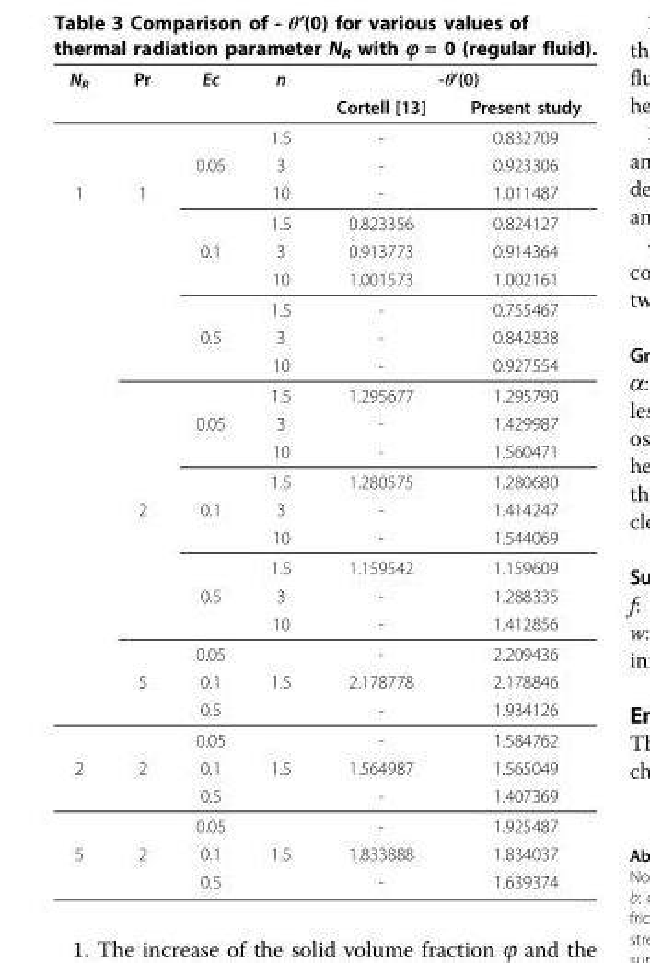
<table><thead><tr><td rowspan="2">N<sub>R</sub></td><td rowspan="2">Pr</td><td rowspan="2">Ec</td><td rowspan="2">n</td><td colspan="2">-θ’(0)</td></tr><tr><td>Cortell [13]</td><td>Present study</td></tr></thead><tbody><tr><td></td><td></td><td></td><td>1.5</td><td>-</td><td>0.832709</td></tr><tr><td></td><td></td><td>0.05</td><td>3</td><td>-</td><td>0.923306</td></tr><tr><td rowspan="20">1</td><td>1</td><td></td><td>10</td><td>-</td><td>1.011487</td></tr><tr><td></td><td></td><td>1.5</td><td>0.823356</td><td>0.824127</td></tr><tr><td></td><td>0.1</td><td>3</td><td>0.913773</td><td>0.914364</td></tr><tr><td></td><td></td><td>10</td><td>1.001573</td><td>1.002161</td></tr><tr><td></td><td></td><td>1.5</td><td>-</td><td>0.755467</td></tr><tr><td></td><td>0.5</td><td>3</td><td>-</td><td>0.842838</td></tr><tr><td></td><td></td><td>10</td><td>-</td><td>0.927554</td></tr><tr><td></td><td></td><td>1.5</td><td>1.295677</td><td>1.295790</td></tr><tr><td></td><td>0.05</td><td>3</td><td>-</td><td>1.429987</td></tr><tr><td></td><td></td><td>10</td><td>-</td><td>1.560471</td></tr><tr><td></td><td></td><td>1.5</td><td>1.280575</td><td>1.280680</td></tr><tr><td>2</td><td>0.1</td><td>3</td><td>-</td><td>1.414247</td></tr><tr><td></td><td></td><td>10</td><td>-</td><td>1.544069</td></tr><tr><td></td><td></td><td>1.5</td><td>1.159542</td><td>1.159609</td></tr><tr><td></td><td>0.5</td><td>3</td><td>-</td><td>1.288335</td></tr><tr><td></td><td></td><td>10</td><td>-</td><td>1.412856</td></tr><tr><td></td><td>0.05</td><td></td><td>-</td><td>2.209436</td></tr><tr><td>5</td><td>0.1</td><td>1.5</td><td>2.178778</td><td>2.178846</td></tr><tr><td></td><td>0.5</td><td></td><td>-</td><td>1.934126</td></tr><tr><td></td><td>0.05</td><td></td><td>-</td><td>1.584762</td></tr><tr><td rowspan="3">2</td><td>2</td><td>0.1</td><td>1.5</td><td>1.564987</td><td>1.565049</td></tr><tr><td></td><td>0.5</td><td></td><td>-</td><td>1.407369</td></tr><tr><td></td><td>0.05</td><td></td><td>-</td><td>1.925487</td></tr><tr><td rowspan="2">5</td><td>2</td><td>0.1</td><td>1.5</td><td>1.833888</td><td>1.834037</td></tr><tr><td></td><td>0.5</td><td></td><td>-</td><td>1.639374</td></tr></tbody></table>